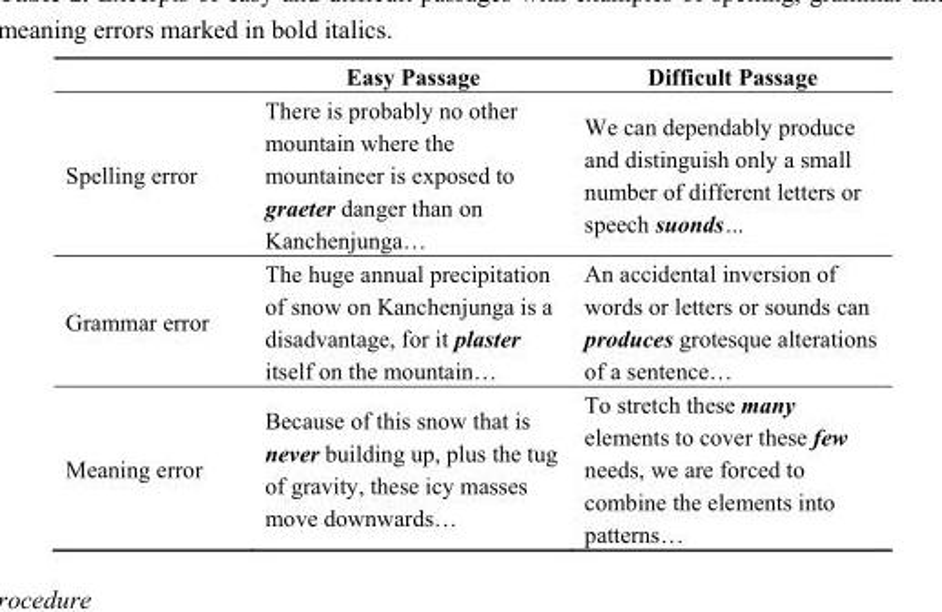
<table><thead><tr><td></td><td>Easy Passage</td><td>Difficult Passage</td></tr></thead><tbody><tr><td>Spelling error</td><td>There is probably no other mountain where the mountaineer is exposed to graeter danger than on Kanchenjunga…</td><td>We can dependably produce and distinguish only a small number of different letters or speech suonds…</td></tr><tr><td>Grammar error</td><td>The huge annual precipitation of snow on Kanchenjunga is a disadvantage, for it plaster itself on the mountain…</td><td>An accidental inversion of words or letters or sounds can produces grotesque alterations of a sentence…</td></tr><tr><td>Meaning error</td><td>Because of this snow that is never building up, plus the tug of gravity, these icy masses move downwards…</td><td>To stretch these many elements to cover these few needs, we are forced to combine the elements into patterns…</td></tr></tbody></table>